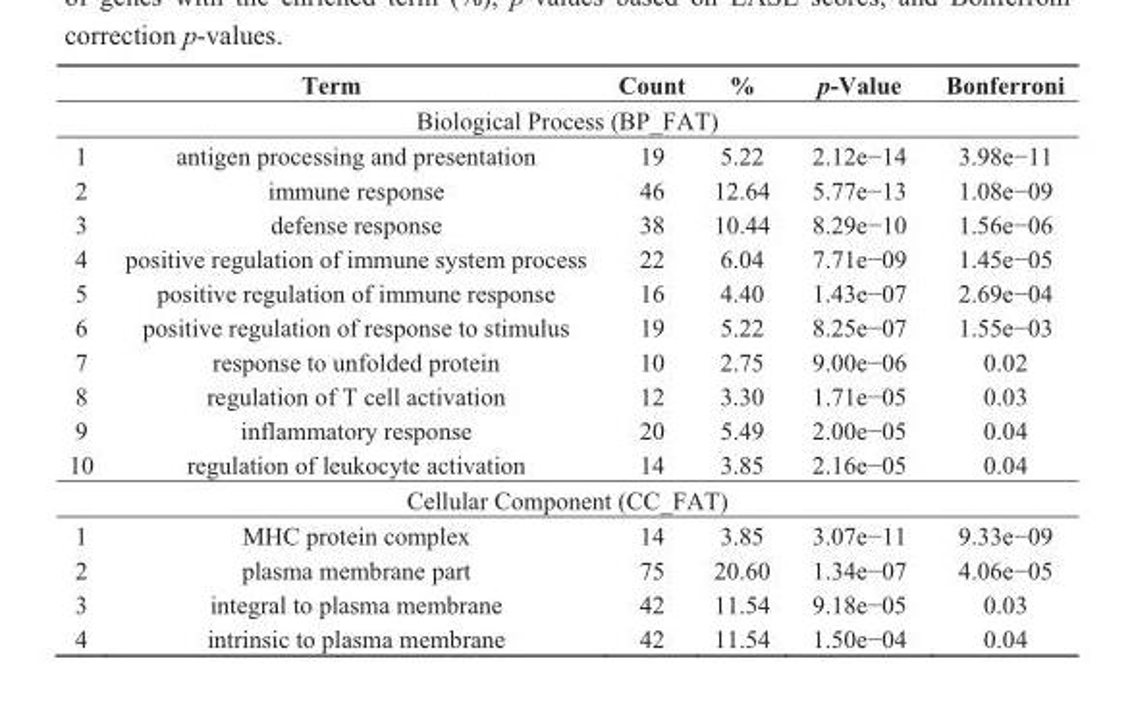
<table><thead><tr><td colspan="2">Term</td><td>Count</td><td>%</td><td>p-Value</td><td>Bonferroni</td></tr><tr><td colspan="6">Biological Process (BP_FAT)</td></tr><tr><td>1</td><td>antigen processing and presentation</td><td>19</td><td>5.22</td><td>2.12e−14</td><td>3.98e−11</td></tr></thead><tbody><tr><td>2</td><td>immune response</td><td>46</td><td>12.64</td><td>5.77e−13</td><td>1.08e−09</td></tr><tr><td>3</td><td>defense response</td><td>38</td><td>10.44</td><td>8.29e−10</td><td>1.56e−06</td></tr><tr><td>4</td><td>positive regulation of immune system process</td><td>22</td><td>6.04</td><td>7.71e−09</td><td>1.45e−05</td></tr><tr><td>5</td><td>positive regulation of immune response</td><td>16</td><td>4.40</td><td>1.43e−07</td><td>2.69e−04</td></tr><tr><td>6</td><td>positive regulation of response to stimulus</td><td>19</td><td>5.22</td><td>8.25e−07</td><td>1.55e−03</td></tr><tr><td>7</td><td>response to unfolded protein</td><td>10</td><td>2.75</td><td>9.00e−06</td><td>0.02</td></tr><tr><td>8</td><td>regulation of T cell activation</td><td>12</td><td>3.30</td><td>1.71e−05</td><td>0.03</td></tr><tr><td>9</td><td>inflammatory response</td><td>20</td><td>5.49</td><td>2.00e−05</td><td>0.04</td></tr><tr><td>10</td><td>regulation of leukocyte activation</td><td>14</td><td>3.85</td><td>2.16e−05</td><td>0.04</td></tr><tr><td colspan="6">Cellular Component (CC_FAT)</td></tr><tr><td>1</td><td>MHC protein complex</td><td>14</td><td>3.85</td><td>3.07e−11</td><td>9.33e−09</td></tr><tr><td>2</td><td>plasma membrane part</td><td>75</td><td>20.60</td><td>1.34e−07</td><td>4.06e−05</td></tr><tr><td>3</td><td>integral to plasma membrane</td><td>42</td><td>11.54</td><td>9.18e−05</td><td>0.03</td></tr><tr><td>4</td><td>intrinsic to plasma membrane</td><td>42</td><td>11.54</td><td>1.50e−04</td><td>0.04</td></tr></tbody></table>